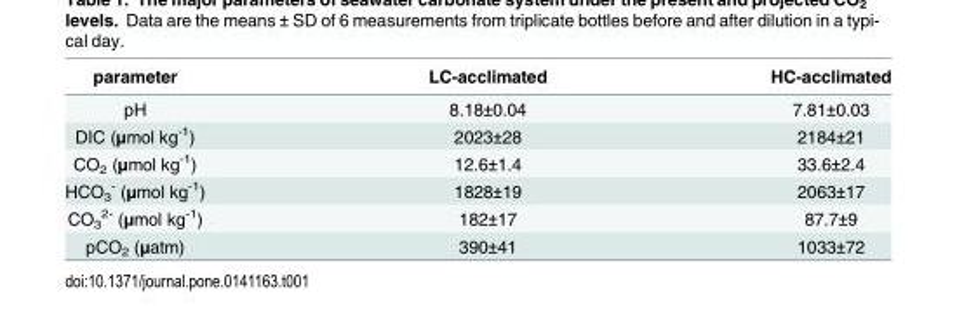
<table><thead><tr><td>parameter</td><td>LC-acclimated</td><td>HC-acclimated</td></tr></thead><tbody><tr><td>pH</td><td>8.18±0.04</td><td>7.81±0.03</td></tr><tr><td>DIC (μmol kg<sup>-1</sup>)</td><td>2023±28</td><td>2184±21</td></tr><tr><td>CO<sub>2</sub> (μmol kg<sup>-1</sup>)</td><td>12.6±1.4</td><td>33.6±2.4</td></tr><tr><td>HCO<sub>3</sub> <sup>-</sup> (μmol kg<sup>-1</sup>)</td><td>1828±19</td><td>2063±17</td></tr><tr><td>CO<sub>3</sub> <sup>2-</sup> (μmol kg<sup>-1</sup>)</td><td>182±17</td><td>87.7±9</td></tr><tr><td>pCO<sub>2</sub> (μatm)</td><td>390±41</td><td>1033±72</td></tr></tbody></table>